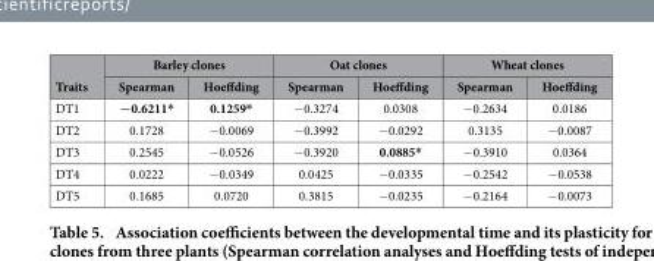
<table><thead><tr><td rowspan="2">Traits</td><td colspan="2">Barley clones</td><td colspan="2">Oat clones</td><td colspan="2">Wheat clones</td></tr><tr><td>Spearman</td><td>Hoeffding</td><td>Spearman</td><td>Hoeffding</td><td>Spearman</td><td>Hoeffding</td></tr></thead><tbody><tr><td>DT1</td><td>−0.6211*</td><td>0.1259*</td><td>− 0.3274</td><td>0.0308</td><td>− 0.2634</td><td>0.0186</td></tr><tr><td>DT2</td><td>0.1728</td><td>− 0.0069</td><td>− 0.3992</td><td>− 0.0292</td><td>0.3135</td><td>− 0.0087</td></tr><tr><td>DT3</td><td>0.2545</td><td>− 0.0526</td><td>− 0.3920</td><td>0.0885*</td><td>− 0.3910</td><td>0.0364</td></tr><tr><td>DT4</td><td>0.0222</td><td>− 0.0349</td><td>0.0425</td><td>− 0.0335</td><td>− 0.2542</td><td>− 0.0538</td></tr><tr><td>DT5</td><td>0.1685</td><td>0.0720</td><td>0.3815</td><td>− 0.0235</td><td>− 0.2164</td><td>− 0.0073</td></tr></tbody></table>